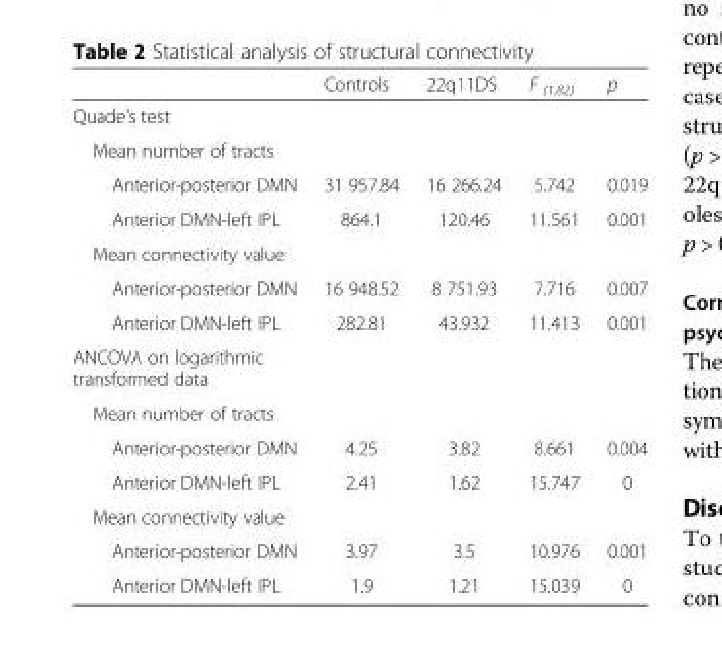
<table><thead><tr><td></td><td>Controls</td><td>22q11DS</td><td>F <sub>(1,82)</sub></td><td>p</td></tr></thead><tbody><tr><td colspan="5">Quade’s test</td></tr><tr><td colspan="5">Mean number of tracts</td></tr><tr><td>Anterior-posterior DMN</td><td>31 957.84</td><td>16 266.24</td><td>5.742</td><td>0.019</td></tr><tr><td>Anterior DMN-left IPL</td><td>864.1</td><td>120.46</td><td>11.561</td><td>0.001</td></tr><tr><td colspan="5">Mean connectivity value</td></tr><tr><td>Anterior-posterior DMN</td><td>16 948.52</td><td>8 751.93</td><td>7.716</td><td>0.007</td></tr><tr><td>Anterior DMN-left IPL</td><td>282.81</td><td>43.932</td><td>11.413</td><td>0.001</td></tr><tr><td colspan="5">ANCOVA on logarithmic transformed data</td></tr><tr><td colspan="5">Mean number of tracts</td></tr><tr><td>Anterior-posterior DMN</td><td>4.25</td><td>3.82</td><td>8.661</td><td>0.004</td></tr><tr><td>Anterior DMN-left IPL</td><td>2.41</td><td>1.62</td><td>15.747</td><td>0</td></tr><tr><td colspan="5">Mean connectivity value</td></tr><tr><td>Anterior-posterior DMN</td><td>3.97</td><td>3.5</td><td>10.976</td><td>0.001</td></tr><tr><td>Anterior DMN-left IPL</td><td>1.9</td><td>1.21</td><td>15.039</td><td>0</td></tr></tbody></table>